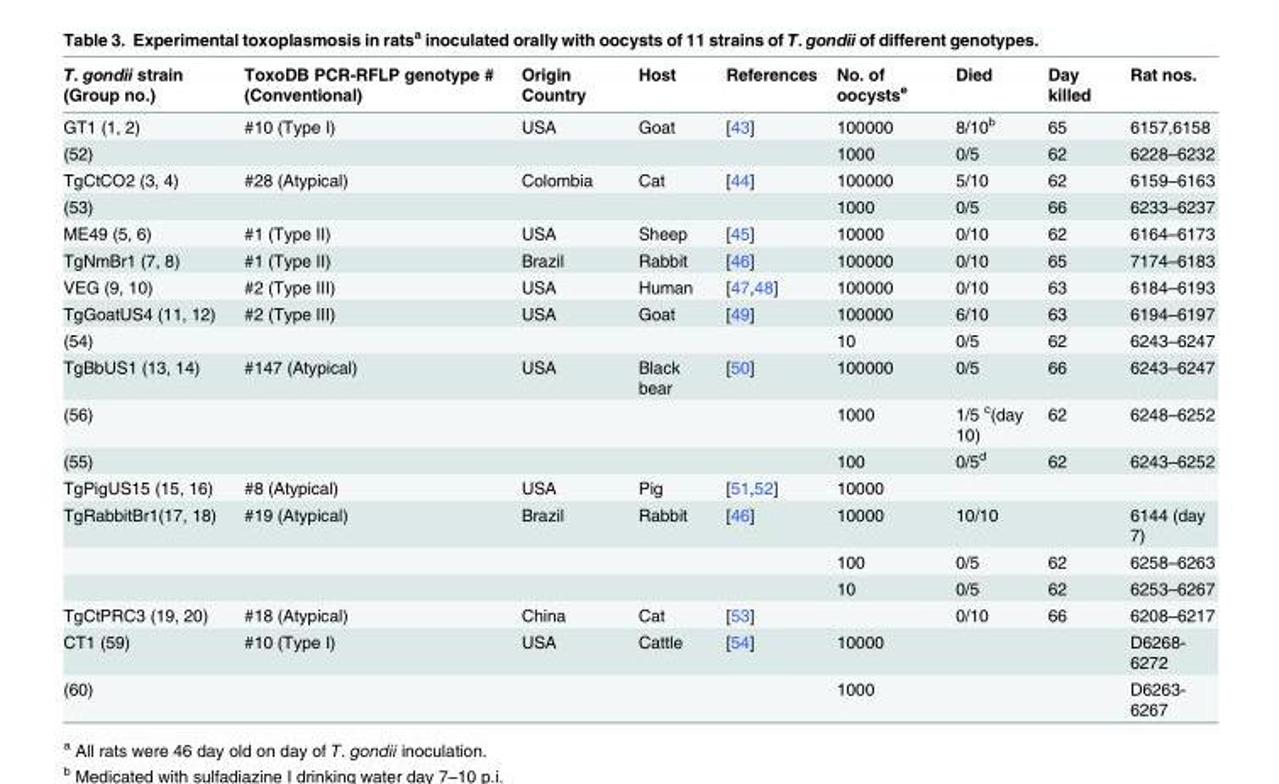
<table><thead><tr><td>T. gondii strain (Group no.)</td><td>ToxoDB PCR-RFLP genotype # (Conventional)</td><td>Origin Country</td><td>Host</td><td>References</td><td>No. of oocysts<sup>e</sup></td><td>Died</td><td>Day killed</td><td>Rat nos.</td></tr></thead><tbody><tr><td>GT1 (1, 2)</td><td>#10 (Type I)</td><td>USA</td><td>Goat</td><td>[43]</td><td>100000</td><td>8/10<sup>b</sup></td><td>65</td><td>6157,6158</td></tr><tr><td>(52)</td><td></td><td></td><td></td><td></td><td>1000</td><td>0/5</td><td>62</td><td>6228–6232</td></tr><tr><td>TgCtCO2 (3, 4)</td><td>#28 (Atypical)</td><td>Colombia</td><td>Cat</td><td>[44]</td><td>100000</td><td>5/10</td><td>62</td><td>6159–6163</td></tr><tr><td>(53)</td><td></td><td></td><td></td><td></td><td>1000</td><td>0/5</td><td>66</td><td>6233–6237</td></tr><tr><td>ME49 (5, 6)</td><td>#1 (Type II)</td><td>USA</td><td>Sheep</td><td>[45]</td><td>10000</td><td>0/10</td><td>62</td><td>6164–6173</td></tr><tr><td>TgNmBr1 (7, 8)</td><td>#1 (Type II)</td><td>Brazil</td><td>Rabbit</td><td>[46]</td><td>100000</td><td>0/10</td><td>65</td><td>7174–6183</td></tr><tr><td>VEG (9, 10)</td><td>#2 (Type III)</td><td>USA</td><td>Human</td><td>[47,48]</td><td>100000</td><td>0/10</td><td>63</td><td>6184–6193</td></tr><tr><td>TgGoatUS4 (11, 12)</td><td>#2 (Type III)</td><td>USA</td><td>Goat</td><td>[49]</td><td>100000</td><td>6/10</td><td>63</td><td>6194–6197</td></tr><tr><td>(54)</td><td></td><td></td><td></td><td></td><td>10</td><td>0/5</td><td>62</td><td>6243–6247</td></tr><tr><td>TgBbUS1 (13, 14)</td><td>#147 (Atypical)</td><td>USA</td><td>Black bear</td><td>[50]</td><td>100000</td><td>0/5</td><td>66</td><td>6243–6247</td></tr><tr><td>(56)</td><td></td><td></td><td></td><td></td><td>1000</td><td>1/5 <sup>c</sup>(day 10)</td><td>62</td><td>6248–6252</td></tr><tr><td>(55)</td><td></td><td></td><td></td><td></td><td>100</td><td>0/5<sup>d</sup></td><td>62</td><td>6243–6252</td></tr><tr><td>TgPigUS15 (15, 16)</td><td>#8 (Atypical)</td><td>USA</td><td>Pig</td><td>[51,52]</td><td>10000</td><td></td><td></td><td></td></tr><tr><td rowspan="3">TgRabbitBr1(17, 18)</td><td>#19 (Atypical)</td><td>Brazil</td><td>Rabbit</td><td>[46]</td><td>10000</td><td>10/10</td><td></td><td>6144 (day 7)</td></tr><tr><td></td><td></td><td></td><td></td><td>100</td><td>0/5</td><td>62</td><td>6258–6263</td></tr><tr><td></td><td></td><td></td><td></td><td>10</td><td>0/5</td><td>62</td><td>6253–6267</td></tr><tr><td>TgCtPRC3 (19, 20)</td><td>#18 (Atypical)</td><td>China</td><td>Cat</td><td>[53]</td><td></td><td>0/10</td><td>66</td><td>6208–6217</td></tr><tr><td>CT1 (59)</td><td>#10 (Type I)</td><td>USA</td><td>Cattle</td><td>[54]</td><td>10000</td><td></td><td></td><td>D6268- 6272</td></tr><tr><td>(60)</td><td></td><td></td><td></td><td></td><td>1000</td><td></td><td></td><td>D6263- 6267</td></tr></tbody></table>